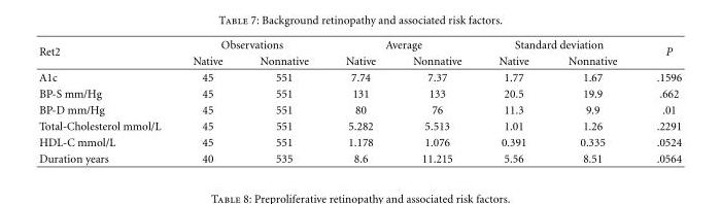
<table><thead><tr><td rowspan="2">Ret2</td><td colspan="2">Observations</td><td colspan="2">Average</td><td colspan="2">Standard deviation</td><td rowspan="2">P</td></tr><tr><td>Native</td><td>Nonnative</td><td>Native</td><td>Nonnative</td><td>Native</td><td>Nonnative</td></tr></thead><tbody><tr><td>A1c</td><td>45</td><td>551</td><td>7.74</td><td>7.37</td><td>1.77</td><td>1.67</td><td>.1596</td></tr><tr><td>BP-S mm/Hg</td><td>45</td><td>551</td><td>131</td><td>133</td><td>20.5</td><td>19.9</td><td>.662</td></tr><tr><td>BP-D mm/Hg</td><td>45</td><td>551</td><td>80</td><td>76</td><td>11.3</td><td>9.9</td><td>.01</td></tr><tr><td>Total-Cholesterol mmol/L</td><td>45</td><td>551</td><td>5.282</td><td>5.513</td><td>1.01</td><td>1.26</td><td>.2291</td></tr><tr><td>HDL-C mmol/L</td><td>45</td><td>551</td><td>1.178</td><td>1.076</td><td>0.391</td><td>0.335</td><td>.0524</td></tr><tr><td>Duration years</td><td>40</td><td>535</td><td>8.6</td><td>11.215</td><td>5.56</td><td>8.51</td><td>.0564</td></tr></tbody></table>